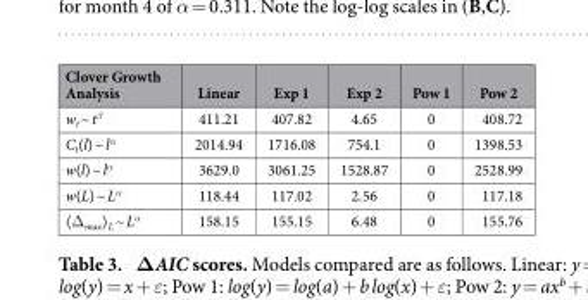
<table><thead><tr><td>Clover Growth Analysis</td><td>Linear</td><td>Exp 1</td><td>Exp 2</td><td>Pow 1</td><td>Pow 2</td></tr></thead><tbody><tr><td>w<sub>t</sub> ~ t<sup>β</sup></td><td>411.21</td><td>407.82</td><td>4.65</td><td>0</td><td>408.72</td></tr><tr><td>C<sub>t</sub>(l) ~ l<sup>α</sup></td><td>2014.94</td><td>1716.08</td><td>754.1</td><td>0</td><td>1398.53</td></tr><tr><td>w(l) ~ l<sup>α</sup></td><td>3629.0</td><td>3061.25</td><td>1528.87</td><td>0</td><td>2528.99</td></tr><tr><td>w(L) ~ L<sup>α</sup></td><td>118.44</td><td>117.02</td><td>2.56</td><td>0</td><td>117.18</td></tr><tr><td>〈 Δ <sub>max</sub>〉 <sub>L</sub> ~ L<sup>α</sup></td><td>158.15</td><td>155.15</td><td>6.48</td><td>0</td><td>155.76</td></tr></tbody></table>